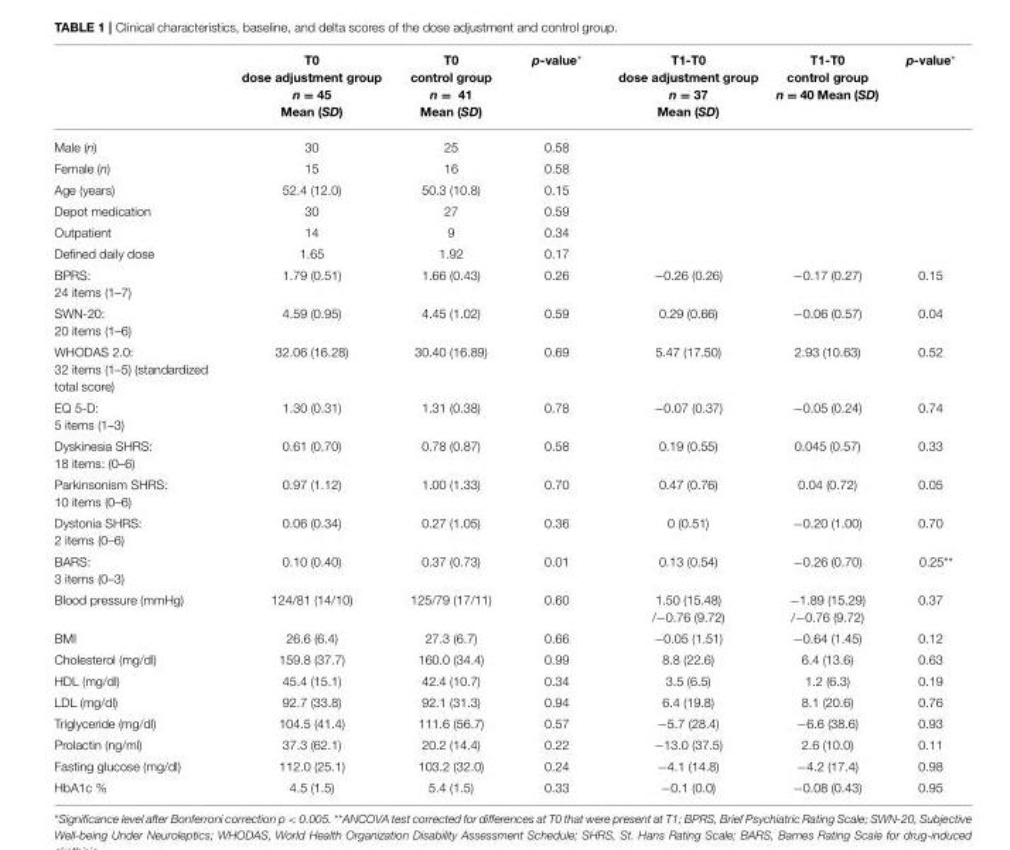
<table><thead><tr><td></td><td>T0 dose adjustment group n = 45 Mean (SD)</td><td>T0 control group n = 41 Mean (SD)</td><td>p-value*</td><td>T1-T0 dose adjustment group n = 37 Mean (SD)</td><td>T1-T0 control group n = 40 Mean (SD)</td><td>p-value*</td></tr></thead><tbody><tr><td>Male (n)</td><td>30</td><td>25</td><td>0.58</td><td></td><td></td><td></td></tr><tr><td>Female (n)</td><td>15</td><td>16</td><td>0.58</td><td></td><td></td><td></td></tr><tr><td>Age (years)</td><td>52.4 (12.0)</td><td>50.3 (10.8)</td><td>0.15</td><td></td><td></td><td></td></tr><tr><td>Depot medication</td><td>30</td><td>27</td><td>0.59</td><td></td><td></td><td></td></tr><tr><td>Outpatient</td><td>14</td><td>9</td><td>0.34</td><td></td><td></td><td></td></tr><tr><td>Defined daily dose</td><td>1.65</td><td>1.92</td><td>0.17</td><td></td><td></td><td></td></tr><tr><td>BPRS: 24 items (1–7)</td><td>1.79 (0.51)</td><td>1.66 (0.43)</td><td>0.26</td><td>−0.26 (0.26)</td><td>−0.17 (0.27)</td><td>0.15</td></tr><tr><td>SWN-20: 20 items (1–6)</td><td>4.59 (0.95)</td><td>4.45 (1.02)</td><td>0.59</td><td>0.29 (0.66)</td><td>−0.06 (0.57)</td><td>0.04</td></tr><tr><td>WHODAS 2.0: 32 items (1–5) (standardized total score)</td><td>32.06 (16.28)</td><td>30.40 (16.89)</td><td>0.69</td><td>5.47 (17.50)</td><td>2.93 (10.63)</td><td>0.52</td></tr><tr><td>EQ 5-D: 5 items (1–3)</td><td>1.30 (0.31)</td><td>1.31 (0.38)</td><td>0.78</td><td>−0.07 (0.37)</td><td>−0.05 (0.24)</td><td>0.74</td></tr><tr><td>Dyskinesia SHRS: 18 items: (0–6)</td><td>0.61 (0.70)</td><td>0.78 (0.87)</td><td>0.58</td><td>0.19 (0.55)</td><td>0.045 (0.57)</td><td>0.33</td></tr><tr><td>Parkinsonism SHRS: 10 items (0–6)</td><td>0.97 (1.12)</td><td>1.00 (1.33)</td><td>0.70</td><td>0.47 (0.76)</td><td>0.04 (0.72)</td><td>0.05</td></tr><tr><td>Dystonia SHRS: 2 items (0–6)</td><td>0.06 (0.34)</td><td>0.27 (1.05)</td><td>0.36</td><td>0 (0.51)</td><td>−0.20 (1.00)</td><td>0.70</td></tr><tr><td>BARS: 3 items (0–3)</td><td>0.10 (0.40)</td><td>0.37 (0.73)</td><td>0.01</td><td>0.13 (0.54)</td><td>−0.26 (0.70)</td><td>0.25**</td></tr><tr><td>Blood pressure (mmHg)</td><td>124/81 (14/10)</td><td>125/79 (17/11)</td><td>0.60</td><td>1.50 (15.48) /−0.76 (9.72)</td><td>−1.89 (15.29) /−0.76 (9.72)</td><td>0.37</td></tr><tr><td>BMI</td><td>26.6 (6.4)</td><td>27.3 (6.7)</td><td>0.66</td><td>−0.05 (1.51)</td><td>−0.64 (1.45)</td><td>0.12</td></tr><tr><td>Cholesterol (mg/dl)</td><td>159.8 (37.7)</td><td>160.0 (34.4)</td><td>0.99</td><td>8.8 (22.6)</td><td>6.4 (13.6)</td><td>0.63</td></tr><tr><td>HDL (mg/dl)</td><td>45.4 (15.1)</td><td>42.4 (10.7)</td><td>0.34</td><td>3.5 (6.5)</td><td>1.2 (6.3)</td><td>0.19</td></tr><tr><td>LDL (mg/dl)</td><td>92.7 (33.8)</td><td>92.1 (31.3)</td><td>0.94</td><td>6.4 (19.8)</td><td>8.1 (20.6)</td><td>0.76</td></tr><tr><td>Triglyceride (mg/dl)</td><td>104.5 (41.4)</td><td>111.6 (56.7)</td><td>0.57</td><td>−5.7 (28.4)</td><td>−6.6 (38.6)</td><td>0.93</td></tr><tr><td>Prolactin (ng/ml)</td><td>37.3 (62.1)</td><td>20.2 (14.4)</td><td>0.22</td><td>−13.0 (37.5)</td><td>2.6 (10.0)</td><td>0.11</td></tr><tr><td>Fasting glucose (mg/dl)</td><td>112.0 (25.1)</td><td>103.2 (32.0)</td><td>0.24</td><td>−4.1 (14.8)</td><td>−4.2 (17.4)</td><td>0.98</td></tr><tr><td>HbA1c %</td><td>4.5 (1.5)</td><td>5.4 (1.5)</td><td>0.33</td><td>−0.1 (0.0)</td><td>−0.08 (0.43)</td><td>0.95</td></tr></tbody></table>